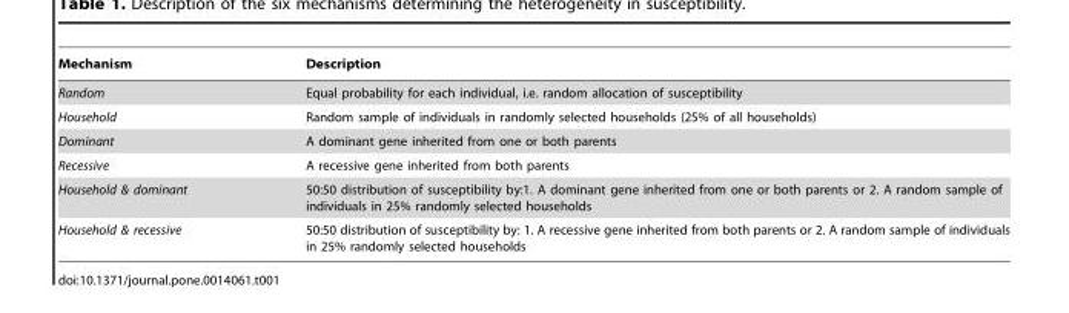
<table><thead><tr><td>Mechanism</td><td>Description</td></tr></thead><tbody><tr><td>Random</td><td>Equal probability for each individual, i.e. random allocation of susceptibility</td></tr><tr><td>Household</td><td>Random sample of individuals in randomly selected households (25% of all households)</td></tr><tr><td>Dominant</td><td>A dominant gene inherited from one or both parents</td></tr><tr><td>Recessive</td><td>A recessive gene inherited from both parents</td></tr><tr><td>Household &amp; dominant</td><td>50:50 distribution of susceptibility by:1. A dominant gene inherited from one or both parents or 2. A random sample of individuals in 25% randomly selected households</td></tr><tr><td>Household &amp; recessive</td><td>50:50 distribution of susceptibility by: 1. A recessive gene inherited from both parents or 2. A random sample of individuals in 25% randomly selected households</td></tr></tbody></table>